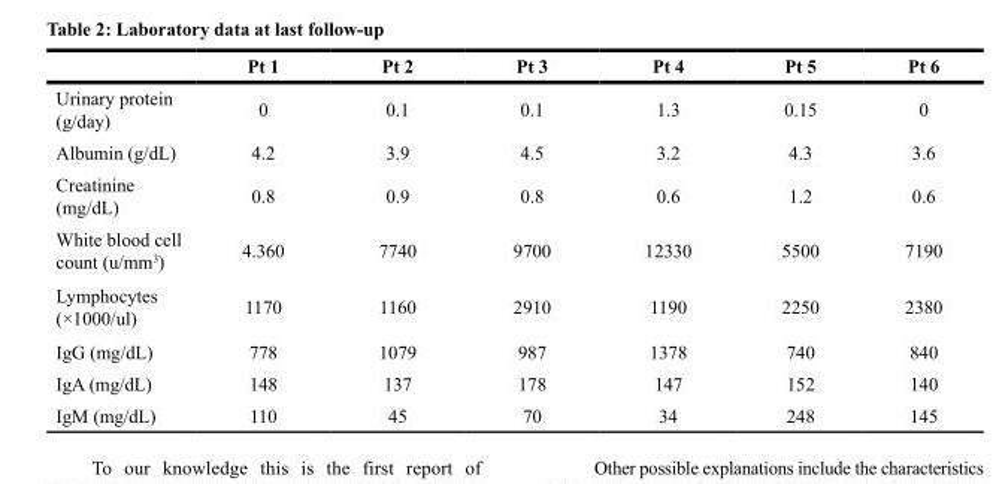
<table><thead><tr><td></td><td>Pt 1</td><td>Pt 2</td><td>Pt 3</td><td>Pt 4</td><td>Pt 5</td><td>Pt 6</td></tr></thead><tbody><tr><td>Urinary protein (g/day)</td><td>0</td><td>0.1</td><td>0.1</td><td>1.3</td><td>0.15</td><td>0</td></tr><tr><td>Albumin (g/dL)</td><td>4.2</td><td>3.9</td><td>4.5</td><td>3.2</td><td>4.3</td><td>3.6</td></tr><tr><td>Creatinine (mg/dL)</td><td>0.8</td><td>0.9</td><td>0.8</td><td>0.6</td><td>1.2</td><td>0.6</td></tr><tr><td>White blood cell count (u/mm<sup>3</sup>)</td><td>4.360</td><td>7740</td><td>9700</td><td>12330</td><td>5500</td><td>7190</td></tr><tr><td>Lymphocytes (×1000/ul)</td><td>1170</td><td>1160</td><td>2910</td><td>1190</td><td>2250</td><td>2380</td></tr><tr><td>IgG (mg/dL)</td><td>778</td><td>1079</td><td>987</td><td>1378</td><td>740</td><td>840</td></tr><tr><td>IgA (mg/dL)</td><td>148</td><td>137</td><td>178</td><td>147</td><td>152</td><td>140</td></tr><tr><td>IgM (mg/dL)</td><td>110</td><td>45</td><td>70</td><td>34</td><td>248</td><td>145</td></tr></tbody></table>